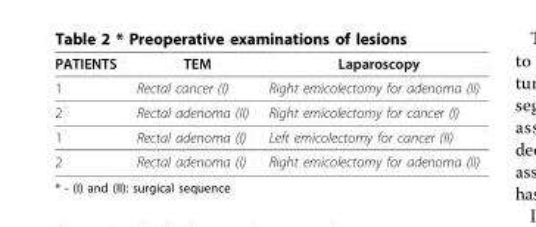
<table><thead><tr><td>PATIENTS</td><td>TEM</td><td>Laparoscopy</td></tr></thead><tbody><tr><td>1</td><td>Rectal cancer (I)</td><td>Right emicolectomy for adenoma (II)</td></tr><tr><td>2</td><td>Rectal adenoma (II)</td><td>Right emicolectomy for cancer (I)</td></tr><tr><td>1</td><td>Rectal adenoma (I)</td><td>Left emicolectomy for cancer (II)</td></tr><tr><td>2</td><td>Rectal adenoma (I)</td><td>Right emicolectomy for adenoma (II)</td></tr></tbody></table>